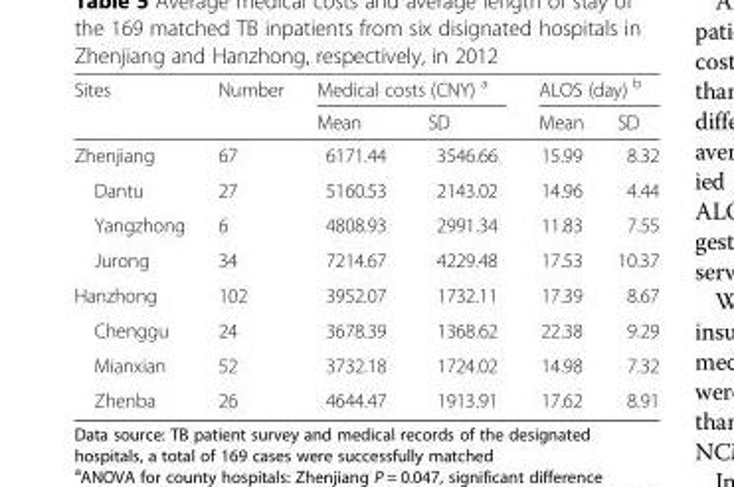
<table><thead><tr><td rowspan="2">Sites</td><td rowspan="2">Number</td><td colspan="2">Medical costs (CNY) <sup>a</sup></td><td colspan="2">ALOS (day) <sup>b</sup></td></tr><tr><td>Mean</td><td>SD</td><td>Mean</td><td>SD</td></tr></thead><tbody><tr><td>Zhenjiang</td><td>67</td><td>6171.44</td><td>3546.66</td><td>15.99</td><td>8.32</td></tr><tr><td>Dantu</td><td>27</td><td>5160.53</td><td>2143.02</td><td>14.96</td><td>4.44</td></tr><tr><td>Yangzhong</td><td>6</td><td>4808.93</td><td>2991.34</td><td>11.83</td><td>7.55</td></tr><tr><td>Jurong</td><td>34</td><td>7214.67</td><td>4229.48</td><td>17.53</td><td>10.37</td></tr><tr><td>Hanzhong</td><td>102</td><td>3952.07</td><td>1732.11</td><td>17.39</td><td>8.67</td></tr><tr><td>Chenggu</td><td>24</td><td>3678.39</td><td>1368.62</td><td>22.38</td><td>9.29</td></tr><tr><td>Mianxian</td><td>52</td><td>3732.18</td><td>1724.02</td><td>14.98</td><td>7.32</td></tr><tr><td>Zhenba</td><td>26</td><td>4644.47</td><td>1913.91</td><td>17.62</td><td>8.91</td></tr></tbody></table>